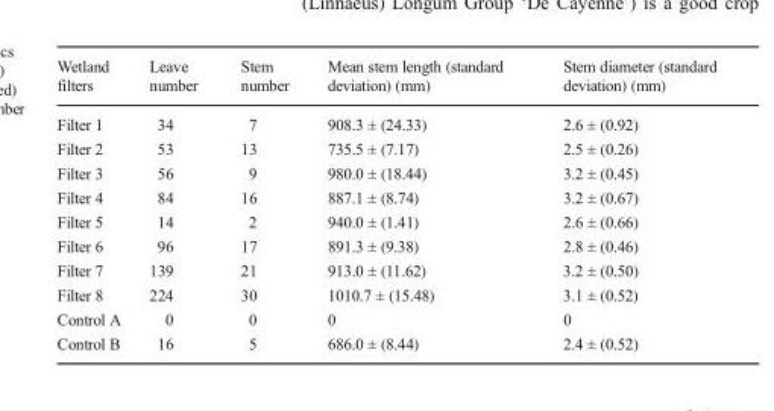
<table><thead><tr><td>Wetland filters</td><td>Leave number</td><td>Stem number</td><td>Mean stem length (standard deviation) (mm)</td><td>Stem diameter (standard deviation) (mm)</td></tr></thead><tbody><tr><td>Filter 1</td><td>34</td><td>7</td><td>908.3 ± (24.33)</td><td>2.6 ± (0.92)</td></tr><tr><td>Filter 2</td><td>53</td><td>13</td><td>735.5 ± (7.17)</td><td>2.5 ± (0.26)</td></tr><tr><td>Filter 3</td><td>56</td><td>9</td><td>980.0 ± (18.44)</td><td>3.2 ± (0.45)</td></tr><tr><td>Filter 4</td><td>84</td><td>16</td><td>887.1 ± (8.74)</td><td>3.2 ± (0.67)</td></tr><tr><td>Filter 5</td><td>14</td><td>2</td><td>940.0 ± (1.41)</td><td>2.6 ± (0.66)</td></tr><tr><td>Filter 6</td><td>96</td><td>17</td><td>891.3 ± (9.38)</td><td>2.8 ± (0.46)</td></tr><tr><td>Filter 7</td><td>139</td><td>21</td><td>913.0 ± (11.62)</td><td>3.2 ± (0.50)</td></tr><tr><td>Filter 8</td><td>224</td><td>30</td><td>1010.7 ± (15.48)</td><td>3.1 ± (0.52)</td></tr><tr><td>Control A</td><td>0</td><td>0</td><td>0</td><td>0</td></tr><tr><td>Control B</td><td>16</td><td>5</td><td>686.0 ± (8.44)</td><td>2.4 ± (0.52)</td></tr></tbody></table>